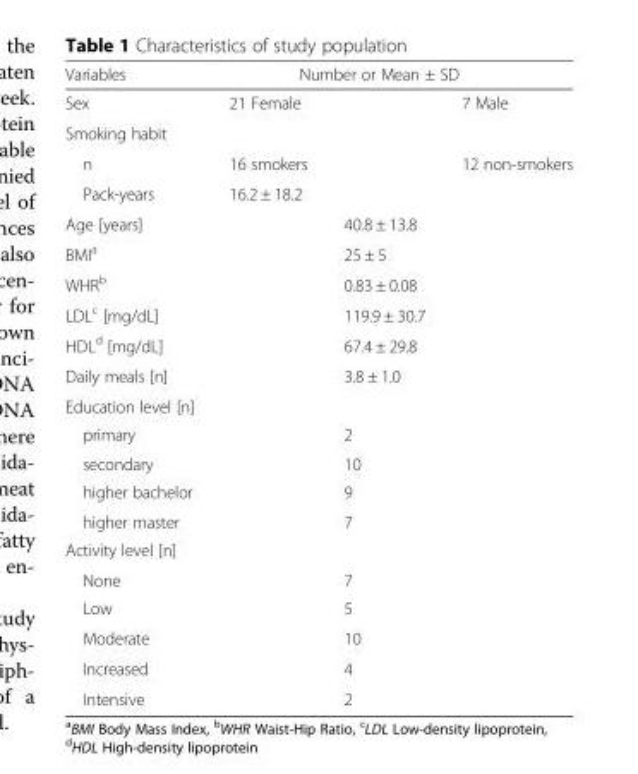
<table><thead><tr><td rowspan="2">Variables Sex</td><td colspan="3">Number or Mean ± SD</td></tr><tr><td>21 Female</td><td></td><td>7 Male</td></tr></thead><tbody><tr><td colspan="4">Smoking habit</td></tr><tr><td>n</td><td>16 smokers</td><td></td><td>12 non-smokers</td></tr><tr><td>Pack-years</td><td>16.2 ± 18.2</td><td></td><td></td></tr><tr><td>Age [years]</td><td></td><td>40.8 ± 13.8</td><td></td></tr><tr><td>BMI<sup>a</sup></td><td></td><td>25 ± 5</td><td></td></tr><tr><td>WHR<sup>b</sup></td><td></td><td>0.83 ± 0.08</td><td></td></tr><tr><td>LDL<sup>c</sup> [mg/dL]</td><td></td><td>119.9 ± 30.7</td><td></td></tr><tr><td>HDL<sup>d</sup> [mg/dL]</td><td></td><td>67.4 ± 29.8</td><td></td></tr><tr><td>Daily meals [n]</td><td></td><td>3.8 ± 1.0</td><td></td></tr><tr><td colspan="4">Education level [n]</td></tr><tr><td>primary</td><td></td><td>2</td><td></td></tr><tr><td>secondary</td><td></td><td>10</td><td></td></tr><tr><td>higher bachelor</td><td></td><td>9</td><td></td></tr><tr><td>higher master</td><td></td><td>7</td><td></td></tr><tr><td colspan="4">Activity level [n]</td></tr><tr><td>None</td><td></td><td>7</td><td></td></tr><tr><td>Low</td><td></td><td>5</td><td></td></tr><tr><td>Moderate</td><td></td><td>10</td><td></td></tr><tr><td>Increased</td><td></td><td>4</td><td></td></tr><tr><td>Intensive</td><td></td><td>2</td><td></td></tr></tbody></table>